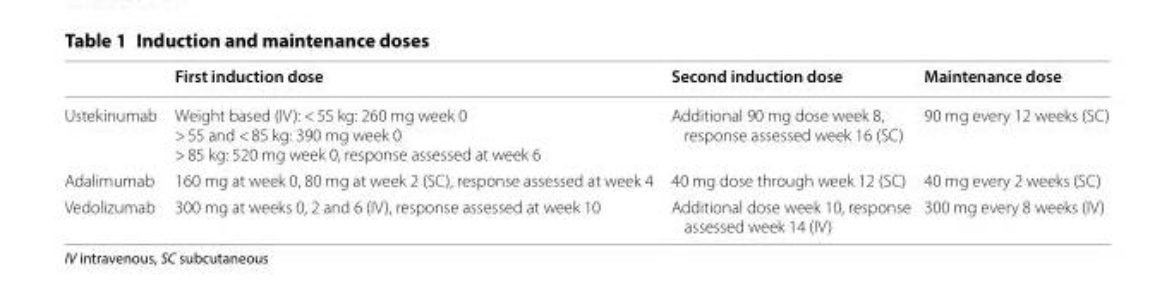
<table><thead><tr><td></td><td>First induction dose</td><td>Second induction dose</td><td>Maintenance dose</td></tr></thead><tbody><tr><td>Ustekinumab</td><td>Weight based (IV): &lt; 55 kg: 260 mg week 0 &gt; 55 and &lt; 85 kg: 390 mg week 0 &gt; 85 kg: 520 mg week 0, response assessed at week 6</td><td>Additional 90 mg dose week 8, response assessed week 16 (SC)</td><td>90 mg every 12 weeks (SC)</td></tr><tr><td>Adalimumab</td><td>160 mg at week 0, 80 mg at week 2 (SC), response assessed at week 4</td><td>40 mg dose through week 12 (SC)</td><td>40 mg every 2 weeks (SC)</td></tr><tr><td>Vedolizumab</td><td>300 mg at weeks 0, 2 and 6 (IV), response assessed at week 10</td><td>Additional dose week 10, response assessed week 14 (IV)</td><td>300 mg every 8 weeks (IV)</td></tr></tbody></table>